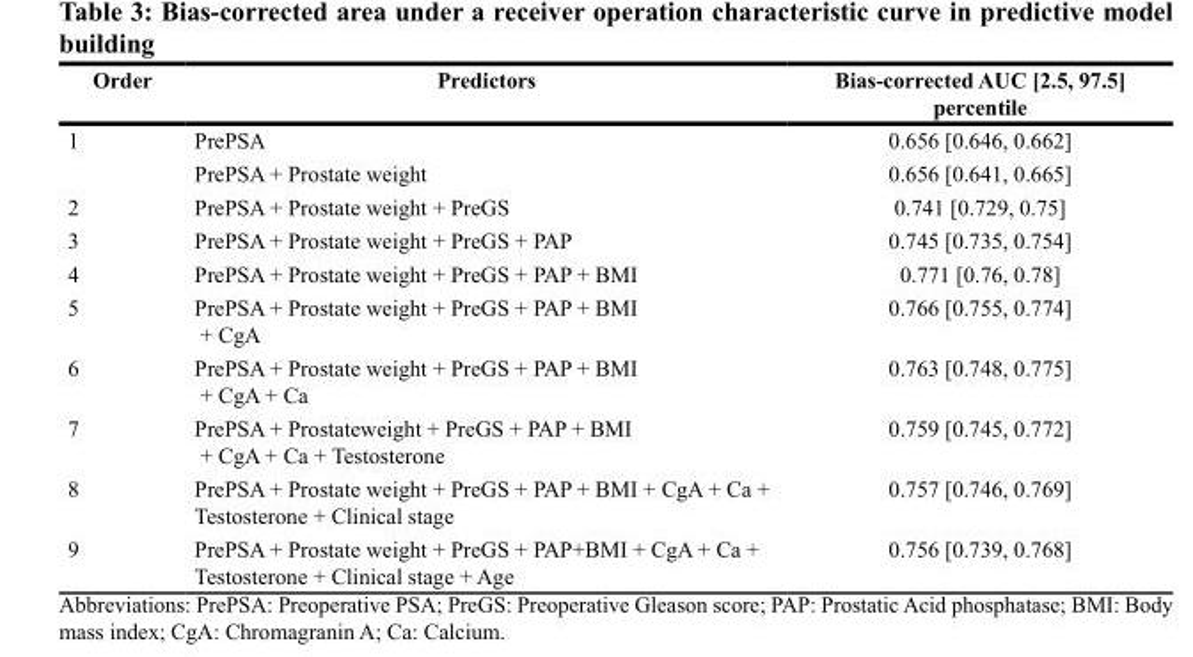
<table><thead><tr><td>Order</td><td>Predictors</td><td>Bias-corrected AUC [2.5, 97.5] percentile</td></tr></thead><tbody><tr><td rowspan="2">1</td><td>PrePSA</td><td>0.656 [0.646, 0.662]</td></tr><tr><td>PrePSA + Prostate weight</td><td>0.656 [0.641, 0.665]</td></tr><tr><td>2</td><td>PrePSA + Prostate weight + PreGS</td><td>0.741 [0.729, 0.75]</td></tr><tr><td>3</td><td>PrePSA + Prostate weight + PreGS + PAP</td><td>0.745 [0.735, 0.754]</td></tr><tr><td>4</td><td>PrePSA + Prostate weight + PreGS + PAP + BMI</td><td>0.771 [0.76, 0.78]</td></tr><tr><td>5</td><td>PrePSA + Prostate weight + PreGS + PAP + BMI + CgA</td><td>0.766 [0.755, 0.774]</td></tr><tr><td>6</td><td>PrePSA + Prostate weight + PreGS + PAP + BMI + CgA + Ca</td><td>0.763 [0.748, 0.775]</td></tr><tr><td>7</td><td>PrePSA + Prostateweight + PreGS + PAP + BMI + CgA + Ca + Testosterone</td><td>0.759 [0.745, 0.772]</td></tr><tr><td>8</td><td>PrePSA + Prostate weight + PreGS + PAP + BMI + CgA + Ca + Testosterone + Clinical stage</td><td>0.757 [0.746, 0.769]</td></tr><tr><td>9</td><td>PrePSA + Prostate weight + PreGS + PAP+BMI + CgA + Ca + Testosterone + Clinical stage + Age</td><td>0.756 [0.739, 0.768]</td></tr></tbody></table>